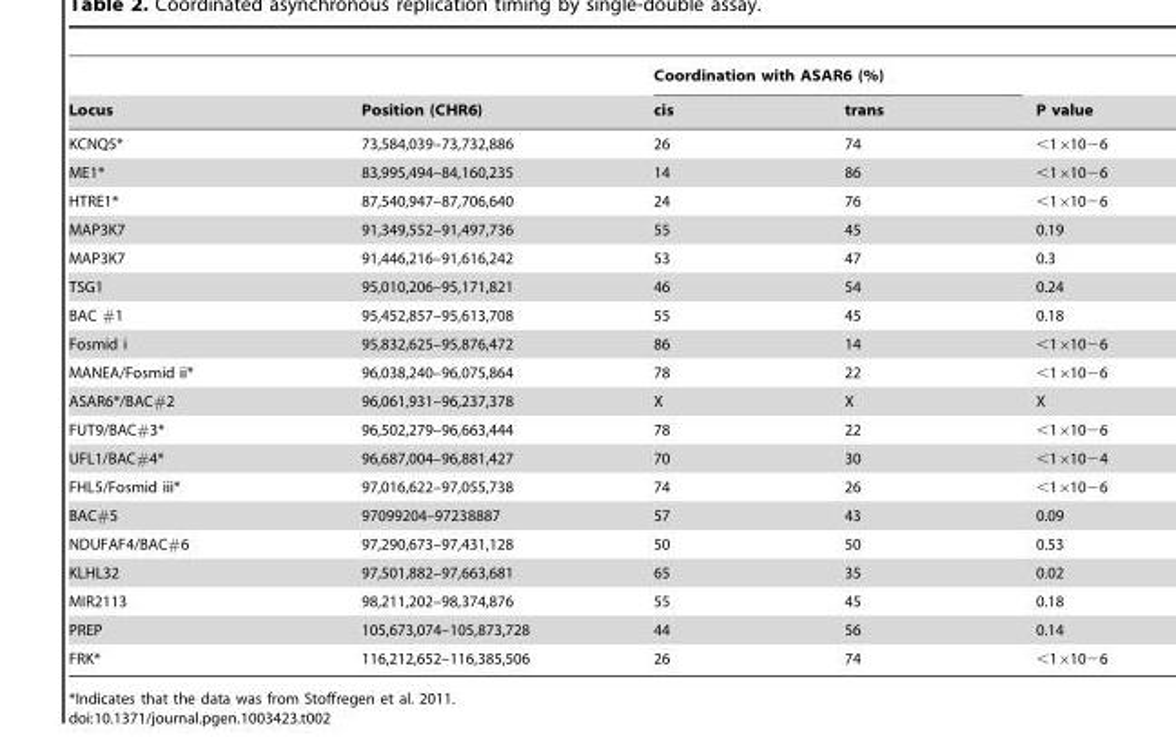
<table><thead><tr><td rowspan="2">Locus</td><td rowspan="2">Position (CHR6)</td><td colspan="2">Coordination with ASAR6 (%)</td><td rowspan="2">P value</td></tr><tr><td>cis</td><td>trans</td></tr></thead><tbody><tr><td>KCNQ5*</td><td>73,584,039–73,732,886</td><td>26</td><td>74</td><td>&lt;1×10−6</td></tr><tr><td>ME1*</td><td>83,995,494–84,160,235</td><td>14</td><td>86</td><td>&lt;1×10−6</td></tr><tr><td>HTRE1*</td><td>87,540,947–87,706,640</td><td>24</td><td>76</td><td>&lt;1×10−6</td></tr><tr><td>MAP3K7</td><td>91,349,552–91,497,736</td><td>55</td><td>45</td><td>0.19</td></tr><tr><td>MAP3K7</td><td>91,446,216–91,616,242</td><td>53</td><td>47</td><td>0.3</td></tr><tr><td>TSG1</td><td>95,010,206–95,171,821</td><td>46</td><td>54</td><td>0.24</td></tr><tr><td>BAC #1</td><td>95,452,857–95,613,708</td><td>55</td><td>45</td><td>0.18</td></tr><tr><td>Fosmid i</td><td>95,832,625–95,876,472</td><td>86</td><td>14</td><td>&lt;1×10−6</td></tr><tr><td>MANEA/Fosmid ii*</td><td>96,038,240–96,075,864</td><td>78</td><td>22</td><td>&lt;1×10−6</td></tr><tr><td>ASAR6*/BAC#2</td><td>96,061,931–96,237,378</td><td>X</td><td>X</td><td>X</td></tr><tr><td>FUT9/BAC#3*</td><td>96,502,279–96,663,444</td><td>78</td><td>22</td><td>&lt;1×10−6</td></tr><tr><td>UFL1/BAC#4*</td><td>96,687,004–96,881,427</td><td>70</td><td>30</td><td>&lt;1×10−4</td></tr><tr><td>FHL5/Fosmid iii*</td><td>97,016,622–97,055,738</td><td>74</td><td>26</td><td>&lt;1×10−6</td></tr><tr><td>BAC#5</td><td>97099204–97238887</td><td>57</td><td>43</td><td>0.09</td></tr><tr><td>NDUFAF4/BAC#6</td><td>97,290,673–97,431,128</td><td>50</td><td>50</td><td>0.53</td></tr><tr><td>KLHL32</td><td>97,501,882–97,663,681</td><td>65</td><td>35</td><td>0.02</td></tr><tr><td>MIR2113</td><td>98,211,202–98,374,876</td><td>55</td><td>45</td><td>0.18</td></tr><tr><td>PREP</td><td>105,673,074–105,873,728</td><td>44</td><td>56</td><td>0.14</td></tr><tr><td>FRK*</td><td>116,212,652–116,385,506</td><td>26</td><td>74</td><td>&lt;1×10−6</td></tr></tbody></table>